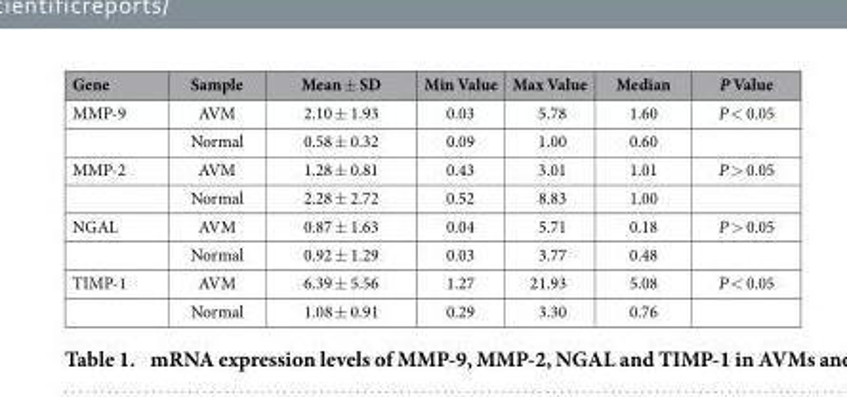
<table><thead><tr><td>Gene</td><td>Sample</td><td>Mean ± SD</td><td>Min Value</td><td>Max Value</td><td>Median</td><td>P Value</td></tr></thead><tbody><tr><td rowspan="2">MMP-9</td><td>AVM</td><td>2.10 ± 1.93</td><td>0.03</td><td>5.78</td><td>1.60</td><td>P &lt; 0.05</td></tr><tr><td>Normal</td><td>0.58 ± 0.32</td><td>0.09</td><td>1.00</td><td>0.60</td><td></td></tr><tr><td rowspan="2">MMP-2</td><td>AVM</td><td>1.28 ± 0.81</td><td>0.43</td><td>3.01</td><td>1.01</td><td>P &gt; 0.05</td></tr><tr><td>Normal</td><td>2.28 ± 2.72</td><td>0.52</td><td>8.83</td><td>1.00</td><td></td></tr><tr><td rowspan="2">NGAL</td><td>AVM</td><td>0.87 ± 1.63</td><td>0.04</td><td>5.71</td><td>0.18</td><td>P &gt; 0.05</td></tr><tr><td>Normal</td><td>0.92 ± 1.29</td><td>0.03</td><td>3.77</td><td>0.48</td><td></td></tr><tr><td rowspan="2">TIMP-1</td><td>AVM</td><td>6.39 ± 5.56</td><td>1.27</td><td>21.93</td><td>5.08</td><td>P &lt; 0.05</td></tr><tr><td>Normal</td><td>1.08 ± 0.91</td><td>0.29</td><td>3.30</td><td>0.76</td><td></td></tr></tbody></table>